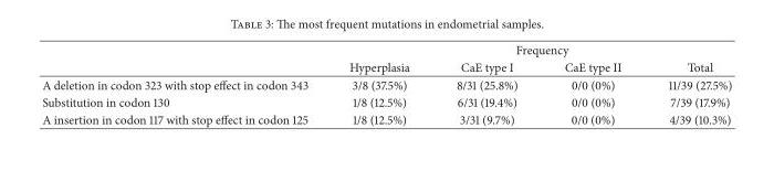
<table><thead><tr><td rowspan="2"></td><td colspan="4">Frequency</td></tr><tr><td>Hyperplasia</td><td>CaE type I</td><td>CaE type II</td><td>Total</td></tr></thead><tbody><tr><td>A deletion in codon 323 with stop effect in codon 343</td><td>3/8 (37.5%)</td><td>8/31 (25.8%)</td><td>0/0 (0%)</td><td>11/39 (27.5%)</td></tr><tr><td>Substitution in codon 130</td><td>1/8 (12.5%)</td><td>6/31 (19.4%)</td><td>0/0 (0%)</td><td>7/39 (17.9%)</td></tr><tr><td>A insertion in codon 117 with stop effect in codon 125</td><td>1/8 (12.5%)</td><td>3/31 (9.7%)</td><td>0/0 (0%)</td><td>4/39 (10.3%)</td></tr></tbody></table>